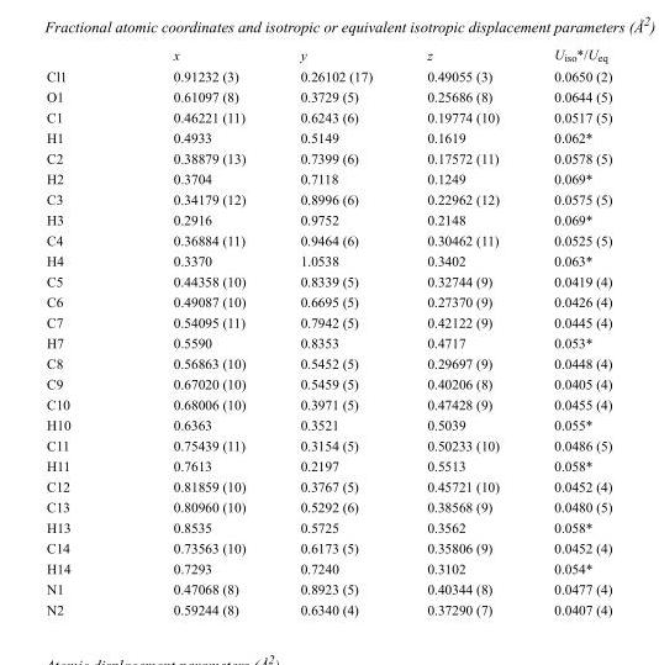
<table><thead><tr><td></td><td>x</td><td>y</td><td>z</td><td>U<sub>iso</sub>*/U<sub>eq</sub></td></tr></thead><tbody><tr><td>Cl1</td><td>0.91232 (3)</td><td>0.26102 (17)</td><td>0.49055 (3)</td><td>0.0650 (2)</td></tr><tr><td>O1</td><td>0.61097 (8)</td><td>0.3729 (5)</td><td>0.25686 (8)</td><td>0.0644 (5)</td></tr><tr><td>C1</td><td>0.46221 (11)</td><td>0.6243 (6)</td><td>0.19774 (10)</td><td>0.0517 (5)</td></tr><tr><td>H1</td><td>0.4933</td><td>0.5149</td><td>0.1619</td><td>0.062*</td></tr><tr><td>C2</td><td>0.38879 (13)</td><td>0.7399 (6)</td><td>0.17572 (11)</td><td>0.0578 (5)</td></tr><tr><td>H2</td><td>0.3704</td><td>0.7118</td><td>0.1249</td><td>0.069*</td></tr><tr><td>C3</td><td>0.34179 (12)</td><td>0.8996 (6)</td><td>0.22962 (12)</td><td>0.0575 (5)</td></tr><tr><td>H3</td><td>0.2916</td><td>0.9752</td><td>0.2148</td><td>0.069*</td></tr><tr><td>C4</td><td>0.36884 (11)</td><td>0.9464 (6)</td><td>0.30462 (11)</td><td>0.0525 (5)</td></tr><tr><td>H4</td><td>0.3370</td><td>1.0538</td><td>0.3402</td><td>0.063*</td></tr><tr><td>C5</td><td>0.44358 (10)</td><td>0.8339 (5)</td><td>0.32744 (9)</td><td>0.0419 (4)</td></tr><tr><td>C6</td><td>0.49087 (10)</td><td>0.6695 (5)</td><td>0.27370 (9)</td><td>0.0426 (4)</td></tr><tr><td>C7</td><td>0.54095 (11)</td><td>0.7942 (5)</td><td>0.42122 (9)</td><td>0.0445 (4)</td></tr><tr><td>H7</td><td>0.5590</td><td>0.8353</td><td>0.4717</td><td>0.053*</td></tr><tr><td>C8</td><td>0.56863 (10)</td><td>0.5452 (5)</td><td>0.29697 (9)</td><td>0.0448 (4)</td></tr><tr><td>C9</td><td>0.67020 (10)</td><td>0.5459 (5)</td><td>0.40206 (8)</td><td>0.0405 (4)</td></tr><tr><td>C10</td><td>0.68006 (10)</td><td>0.3971 (5)</td><td>0.47428 (9)</td><td>0.0455 (4)</td></tr><tr><td>H10</td><td>0.6363</td><td>0.3521</td><td>0.5039</td><td>0.055*</td></tr><tr><td>C11</td><td>0.75439 (11)</td><td>0.3154 (5)</td><td>0.50233 (10)</td><td>0.0486 (5)</td></tr><tr><td>H11</td><td>0.7613</td><td>0.2197</td><td>0.5513</td><td>0.058*</td></tr><tr><td>C12</td><td>0.81859 (10)</td><td>0.3767 (5)</td><td>0.45721 (10)</td><td>0.0452 (4)</td></tr><tr><td>C13</td><td>0.80960 (10)</td><td>0.5292 (6)</td><td>0.38568 (9)</td><td>0.0480 (5)</td></tr><tr><td>H13</td><td>0.8535</td><td>0.5725</td><td>0.3562</td><td>0.058*</td></tr><tr><td>C14</td><td>0.73563 (10)</td><td>0.6173 (5)</td><td>0.35806 (9)</td><td>0.0452 (4)</td></tr><tr><td>H14</td><td>0.7293</td><td>0.7240</td><td>0.3102</td><td>0.054*</td></tr><tr><td>N1</td><td>0.47068 (8)</td><td>0.8923 (5)</td><td>0.40344 (8)</td><td>0.0477 (4)</td></tr><tr><td>N2</td><td>0.59244 (8)</td><td>0.6340 (4)</td><td>0.37290 (7)</td><td>0.0407 (4)</td></tr></tbody></table>